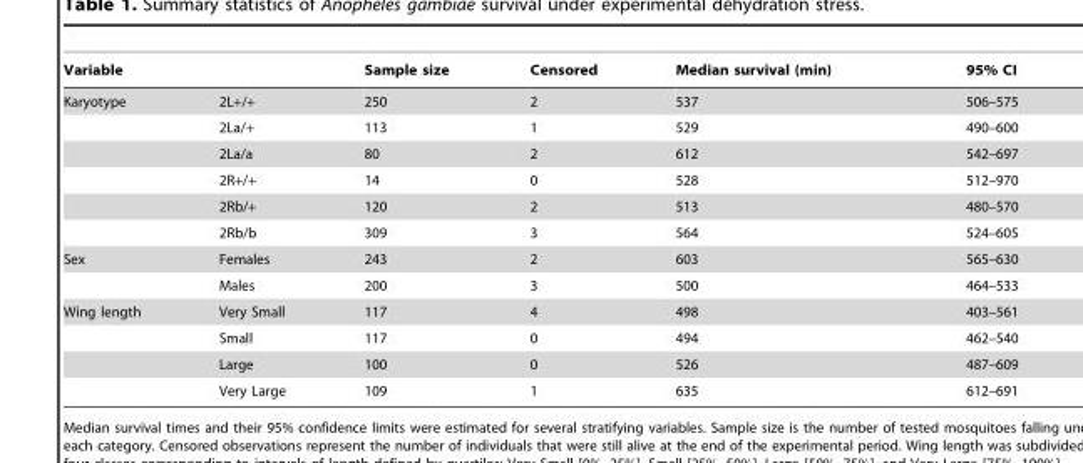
<table><thead><tr><td>Variable</td><td></td><td>Sample size</td><td>Censored</td><td>Median survival (min)</td><td>95% CI</td></tr></thead><tbody><tr><td rowspan="6">Karyotype</td><td>2L+/+</td><td>250</td><td>2</td><td>537</td><td>506–575</td></tr><tr><td>2La/+</td><td>113</td><td>1</td><td>529</td><td>490–600</td></tr><tr><td>2La/a</td><td>80</td><td>2</td><td>612</td><td>542–697</td></tr><tr><td>2R+/+</td><td>14</td><td>0</td><td>528</td><td>512–970</td></tr><tr><td>2Rb/+</td><td>120</td><td>2</td><td>513</td><td>480–570</td></tr><tr><td>2Rb/b</td><td>309</td><td>3</td><td>564</td><td>524–605</td></tr><tr><td rowspan="2">Sex</td><td>Females</td><td>243</td><td>2</td><td>603</td><td>565–630</td></tr><tr><td>Males</td><td>200</td><td>3</td><td>500</td><td>464–533</td></tr><tr><td rowspan="4">Wing length</td><td>Very Small</td><td>117</td><td>4</td><td>498</td><td>403–561</td></tr><tr><td>Small</td><td>117</td><td>0</td><td>494</td><td>462–540</td></tr><tr><td>Large</td><td>100</td><td>0</td><td>526</td><td>487–609</td></tr><tr><td>Very Large</td><td>109</td><td>1</td><td>635</td><td>612–691</td></tr></tbody></table>